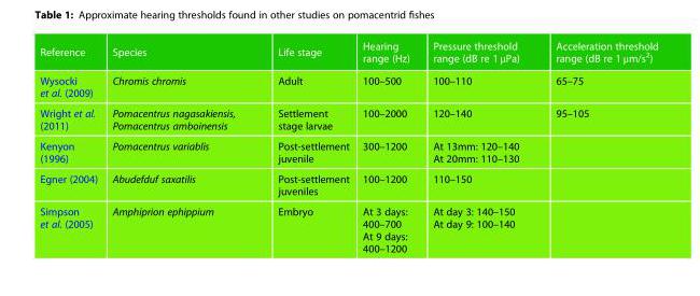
<table><thead><tr><td>Reference</td><td>Species</td><td>Life stage</td><td>Hearing range (Hz)</td><td>Pressure threshold range (dB re 1 μPa)</td><td>Acceleration threshold range (dB re 1 μm/s<sup>2</sup>)</td></tr></thead><tbody><tr><td>Wysocki et al. (2009)</td><td>Chromis chromis</td><td>Adult</td><td>100–500</td><td>100–110</td><td>65–75</td></tr><tr><td>Wright et al. (2011)</td><td>Pomacentrus nagasakiensis, Pomacentrus amboinensis</td><td>Settlement stage larvae</td><td>100–2000</td><td>120–140</td><td>95–105</td></tr><tr><td>Kenyon (1996)</td><td>Pomacentrus variablis</td><td>Post-settlement juvenile</td><td>300–1200</td><td>At 13mm: 120–140 At 20mm: 110–130</td><td></td></tr><tr><td>Egner (2004)</td><td>Abudefduf saxatilis</td><td>Post-settlement juveniles</td><td>100–1200</td><td>110–150</td><td></td></tr><tr><td>Simpson et al. (2005)</td><td>Amphiprion ephippium</td><td>Embryo</td><td>At 3 days: 400–700 At 9 days: 400–1200</td><td>At day 3: 140–150 At day 9: 100–140</td><td></td></tr></tbody></table>